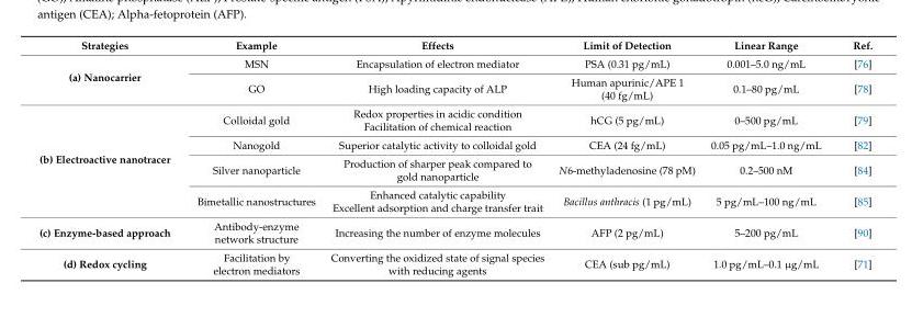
<table><thead><tr><td>Strategies</td><td>Example</td><td>Effects</td><td>Limit of Detection</td><td>Linear Range</td><td>Ref.</td></tr></thead><tbody><tr><td rowspan="2">(a) Nanocarrier</td><td>MSN</td><td>Encapsulation of electron mediator</td><td>PSA (0.31 pg/mL)</td><td>0.001–5.0 ng/mL</td><td>[76]</td></tr><tr><td>GO</td><td>High loading capacity of ALP</td><td>Human apurinic/APE 1 (40 fg/mL)</td><td>0.1–80 pg/mL</td><td>[78]</td></tr><tr><td rowspan="4">(b) Electroactive nanotracer</td><td>Colloidal gold</td><td>Redox properties in acidic condition Facilitation of chemical reaction</td><td>hCG (5 pg/mL)</td><td>0–500 pg/mL</td><td>[79]</td></tr><tr><td>Nanogold</td><td>Superior catalytic activity to colloidal gold</td><td>CEA (24 fg/mL)</td><td>0.05 pg/mL–1.0 ng/mL</td><td>[82]</td></tr><tr><td>Silver nanoparticle</td><td>Production of sharper peak compared to gold nanoparticle</td><td>N6-methyladenosine (78 pM)</td><td>0.2–500 nM</td><td>[84]</td></tr><tr><td>Bimetallic nanostructures</td><td>Enhanced catalytic capability Excellent adsorption and charge transfer trait</td><td>Bacillus anthracis (1 pg/mL)</td><td>5 pg/mL–100 ng/mL</td><td>[85]</td></tr><tr><td>(c) Enzyme-based approach</td><td>Antibody-enzyme network structure</td><td>Increasing the number of enzyme molecules</td><td>AFP (2 pg/mL)</td><td>5–200 pg/mL</td><td>[90]</td></tr><tr><td>(d) Redox cycling</td><td>Facilitation by electron mediators</td><td>Converting the oxidized state of signal species with reducing agents</td><td>CEA (sub pg/mL)</td><td>1.0 pg/mL–0.1 µg/mL</td><td>[71]</td></tr></tbody></table>